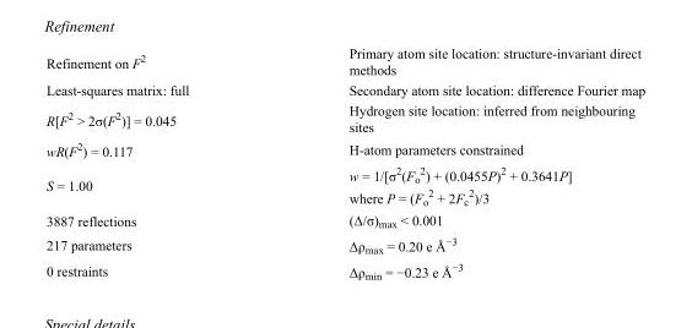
<table><tbody><tr><td>Refinement on F<sup>2</sup></td><td>Primary atom site location: structure-invariant direct methods</td></tr><tr><td>Least-squares matrix: full</td><td>Secondary atom site location: difference Fourier map</td></tr><tr><td>R[F<sup>2</sup> &gt; 2σ(F<sup>2</sup>)] = 0.045</td><td>Hydrogen site location: inferred from neighbouring sites</td></tr><tr><td>wR(F<sup>2</sup>) = 0.117</td><td>H-atom parameters constrained</td></tr><tr><td>S = 1.00</td><td>w = 1/[σ<sup>2</sup>(F<sub>o</sub> <sup>2</sup>) + (0.0455P)<sup>2</sup> + 0.3641P] where P = (F<sub>o</sub> <sup>2</sup> + 2F<sub>c</sub> <sup>2</sup>)/3</td></tr><tr><td>3887 reflections</td><td>(Δ/σ)<sub>max</sub> &lt; 0.001</td></tr><tr><td>217 parameters</td><td>Δρ<sub>max</sub> = 0.20 e Å<sup>−3</sup></td></tr><tr><td>0 restraints</td><td>Δρ<sub>min</sub> = −0.23 e Å<sup>−3</sup></td></tr></tbody></table>